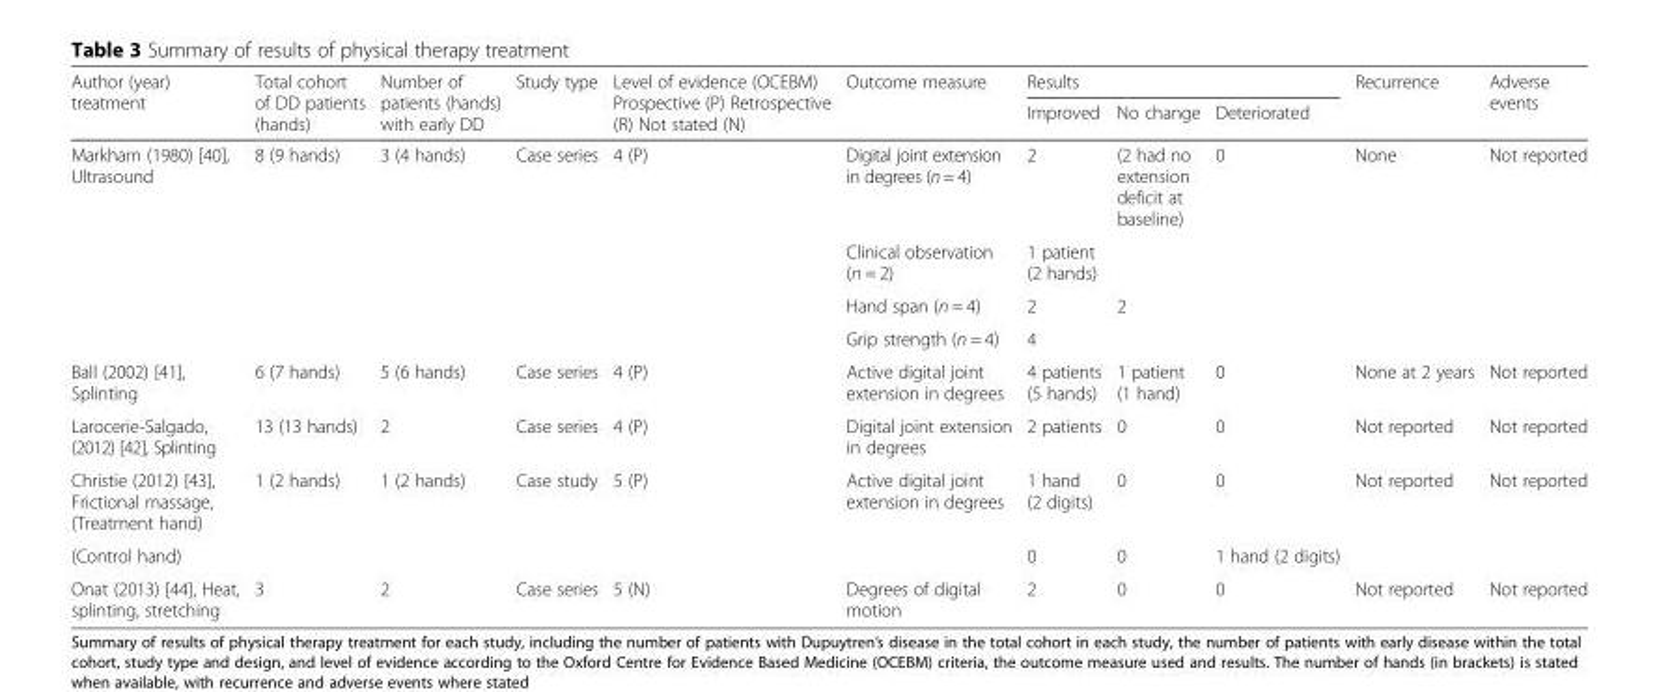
<table><thead><tr><td rowspan="2">Author (year) treatment</td><td rowspan="2">Total cohort of DD patients (hands)</td><td rowspan="2">Number of patients (hands) with early DD</td><td rowspan="2">Study type</td><td rowspan="2">Level of evidence (OCEBM) Prospective (P) Retrospective (R) Not stated (N)</td><td rowspan="2">Outcome measure</td><td colspan="3">Results</td><td rowspan="2">Recurrence</td><td rowspan="2">Adverse events</td></tr><tr><td>Improved</td><td>No change</td><td>Deteriorated</td></tr></thead><tbody><tr><td rowspan="4">Markham (1980) [40], Ultrasound</td><td rowspan="4">8 (9 hands)</td><td rowspan="4">3 (4 hands)</td><td rowspan="4">Case series</td><td rowspan="4">4 (P)</td><td>Digital joint extension in degrees (n = 4)</td><td>2</td><td>(2 had no extension deficit at baseline)</td><td>0</td><td rowspan="4">None</td><td rowspan="4">Not reported</td></tr><tr><td>Clinical observation (n = 2)</td><td>1 patient (2 hands)</td><td></td><td></td></tr><tr><td>Hand span (n = 4)</td><td>2</td><td>2</td><td></td></tr><tr><td>Grip strength (n = 4)</td><td>4</td><td></td><td></td></tr><tr><td>Ball (2002) [41], Splinting</td><td>6 (7 hands)</td><td>5 (6 hands)</td><td>Case series</td><td>4 (P)</td><td>Active digital joint extension in degrees</td><td>4 patients (5 hands)</td><td>1 patient (1 hand)</td><td>0</td><td>None at 2 years</td><td>Not reported</td></tr><tr><td>Larocerie-Salgado, (2012) [42], Splinting</td><td>13 (13 hands)</td><td>2</td><td>Case series</td><td>4 (P)</td><td>Digital joint extension in degrees</td><td>2 patients</td><td>0</td><td>0</td><td>Not reported</td><td>Not reported</td></tr><tr><td>Christie (2012) [43], Frictional massage, (Treatment hand)</td><td rowspan="2">1 (2 hands)</td><td rowspan="2">1 (2 hands)</td><td rowspan="2">Case study</td><td rowspan="2">5 (P)</td><td rowspan="2">Active digital joint extension in degrees</td><td>1 hand (2 digits)</td><td>0</td><td>0</td><td rowspan="2">Not reported</td><td rowspan="2">Not reported</td></tr><tr><td>(Control hand)</td><td>0</td><td>0</td><td>1 hand (2 digits)</td></tr><tr><td>Onat (2013) [44], Heat, splinting, stretching</td><td>3</td><td>2</td><td>Case series</td><td>5 (N)</td><td>Degrees of digital motion</td><td>2</td><td>0</td><td>0</td><td>Not reported</td><td>Not reported</td></tr></tbody></table>